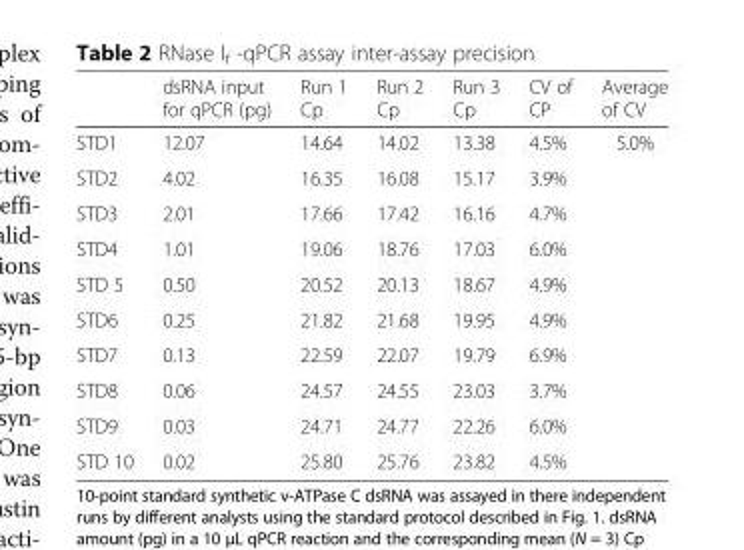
<table><thead><tr><td></td><td>dsRNA input for qPCR (pg)</td><td>Run 1 Cp</td><td>Run 2 Cp</td><td>Run 3 Cp</td><td>CV of CP</td><td>Average of CV</td></tr></thead><tbody><tr><td>STD1</td><td>12.07</td><td>14.64</td><td>14.02</td><td>13.38</td><td>4.5%</td><td>5.0%</td></tr><tr><td>STD2</td><td>4.02</td><td>16.35</td><td>16.08</td><td>15.17</td><td>3.9%</td><td></td></tr><tr><td>STD3</td><td>2.01</td><td>17.66</td><td>17.42</td><td>16.16</td><td>4.7%</td><td></td></tr><tr><td>STD4</td><td>1.01</td><td>19.06</td><td>18.76</td><td>17.03</td><td>6.0%</td><td></td></tr><tr><td>STD 5</td><td>0.50</td><td>20.52</td><td>20.13</td><td>18.67</td><td>4.9%</td><td></td></tr><tr><td>STD6</td><td>0.25</td><td>21.82</td><td>21.68</td><td>19.95</td><td>4.9%</td><td></td></tr><tr><td>STD7</td><td>0.13</td><td>22.59</td><td>22.07</td><td>19.79</td><td>6.9%</td><td></td></tr><tr><td>STD8</td><td>0.06</td><td>24.57</td><td>24.55</td><td>23.03</td><td>3.7%</td><td></td></tr><tr><td>STD9</td><td>0.03</td><td>24.71</td><td>24.77</td><td>22.26</td><td>6.0%</td><td></td></tr><tr><td>STD 10</td><td>0.02</td><td>25.80</td><td>25.76</td><td>23.82</td><td>4.5%</td><td></td></tr></tbody></table>